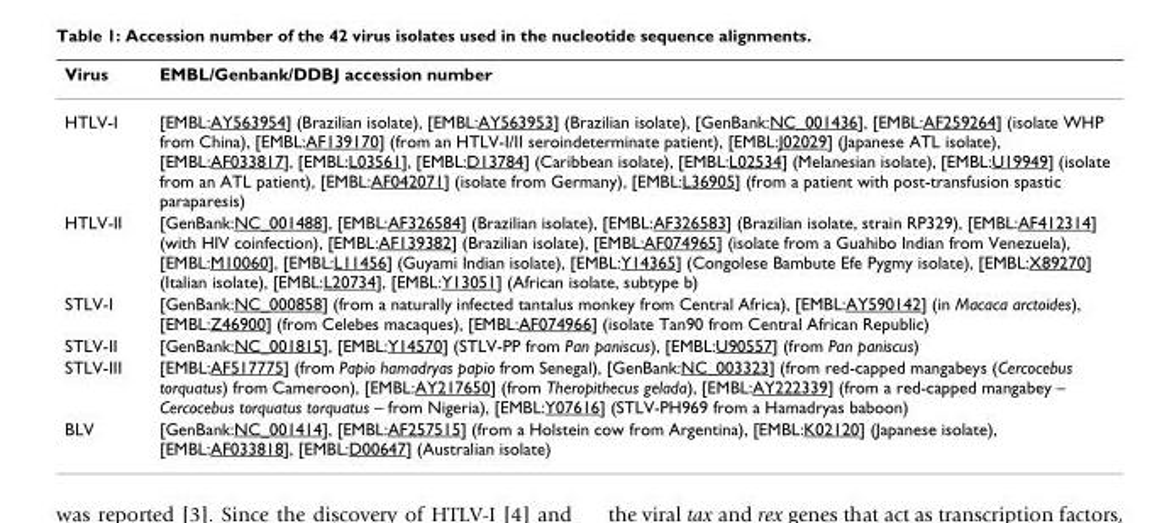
<table><thead><tr><td>Virus</td><td>EMBL/Genbank/DDBJ accession number</td></tr></thead><tbody><tr><td>HTLV-I</td><td>[EMBL:AY563954] (Brazilian isolate), [EMBL:AY563953] (Brazilian isolate), [GenBank:NC_001436], [EMBL:AF259264] (isolate WHP from China), [EMBL:AF139170] (from an HTLV-I/II seroindeterminate patient), [EMBL:J02029] (Japanese ATL isolate), [EMBL:AF033817], [EMBL:L03561], [EMBL:D13784] (Caribbean isolate), [EMBL:L02534] (Melanesian isolate), [EMBL:U19949] (isolate from an ATL patient), [EMBL:AF042071] (isolate from Germany), [EMBL:L36905] (from a patient with post-transfusion spastic paraparesis)</td></tr><tr><td>HTLV-II</td><td>[GenBank:NC_001488], [EMBL:AF326584] (Brazilian isolate), [EMBL:AF326583] (Brazilian isolate, strain RP329), [EMBL:AF412314] (with HIV coinfection), [EMBL:AF139382] (Brazilian isolate), [EMBL:AF074965] (isolate from a Guahibo Indian from Venezuela), [EMBL:M10060], [EMBL:L11456] (Guyami Indian isolate), [EMBL:Y14365] (Congolese Bambute Efe Pygmy isolate), [EMBL:X89270] (Italian isolate), [EMBL:L20734], [EMBL:Y13051] (African isolate, subtype b)</td></tr><tr><td>STLV-I</td><td>[GenBank:NC_000858] (from a naturally infected tantalus monkey from Central Africa), [EMBL:AY590142] (in Macaca arctoides), [EMBL:Z46900] (from Celebes macaques), [EMBL:AF074966] (isolate Tan90 from Central African Republic)</td></tr><tr><td>STLV-II</td><td>[GenBank:NC_001815], [EMBL:Y14570] (STLV-PP from Pan paniscus), [EMBL:U90557] (from Pan paniscus)</td></tr><tr><td>STLV-III</td><td>[EMBL:AF517775] (from Papio hamadryas papio from Senegal), [GenBank:NC_003323] (from red-capped mangabeys (Cercocebus torquatus) from Cameroon), [EMBL:AY217650] (from Theropithecus gelada), [EMBL:AY222339] (from a red-capped mangabey – Cercocebus torquatus torquatus – from Nigeria), [EMBL:Y07616] (STLV-PH969 from a Hamadryas baboon)</td></tr><tr><td>BLV</td><td>[GenBank:NC_001414], [EMBL:AF257515] (from a Holstein cow from Argentina), [EMBL:K02120] (Japanese isolate), [EMBL:AF033818], [EMBL:D00647] (Australian isolate)</td></tr></tbody></table>